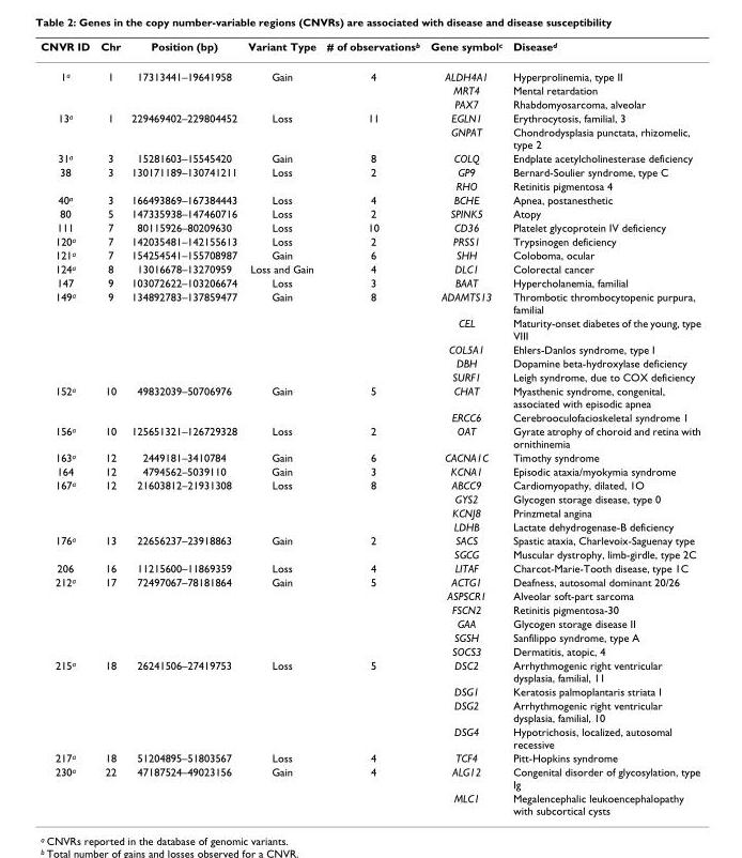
<table><thead><tr><td>CNVR ID</td><td>Chr</td><td>Position (bp)</td><td>Variant Type</td><td># of observations<sup>b</sup></td><td>Gene symbol<sup>c</sup></td><td>Disease<sup>d</sup></td></tr></thead><tbody><tr><td rowspan="3">1<sup>a</sup></td><td>1</td><td>17313441–19641958</td><td>Gain</td><td>4</td><td>ALDH4A1</td><td>Hyperprolinemia, type II</td></tr><tr><td></td><td></td><td></td><td></td><td>MRT4</td><td>Mental retardation</td></tr><tr><td></td><td></td><td></td><td></td><td>PAX7</td><td>Rhabdomyosarcoma, alveolar</td></tr><tr><td rowspan="2">13<sup>a</sup></td><td>1</td><td>229469402–229804452</td><td>Loss</td><td>11</td><td>EGLN1</td><td>Erythrocytosis, familial, 3</td></tr><tr><td></td><td></td><td></td><td></td><td>GNPAT</td><td>Chondrodysplasia punctata, rhizomelic, type 2</td></tr><tr><td>31<sup>a</sup></td><td>3</td><td>15281603–15545420</td><td>Gain</td><td>8</td><td>COLQ</td><td>Endplate acetylcholinesterase deficiency</td></tr><tr><td rowspan="2">38</td><td>3</td><td>130171189–130741211</td><td>Loss</td><td>2</td><td>GP9</td><td>Bernard-Soulier syndrome, type C</td></tr><tr><td></td><td></td><td></td><td></td><td>RHO</td><td>Retinitis pigmentosa 4</td></tr><tr><td>40<sup>a</sup></td><td>3</td><td>166493869–167384443</td><td>Loss</td><td>4</td><td>BCHE</td><td>Apnea, postanesthetic</td></tr><tr><td>80</td><td>5</td><td>147335938–147460716</td><td>Loss</td><td>2</td><td>SPINK5</td><td>Atopy</td></tr><tr><td>111</td><td>7</td><td>80115926–80209630</td><td>Loss</td><td>10</td><td>CD36</td><td>Platelet glycoprotein IV deficiency</td></tr><tr><td>120<sup>a</sup></td><td>7</td><td>142035481–142155613</td><td>Loss</td><td>2</td><td>PRSS1</td><td>Trypsinogen deficiency</td></tr><tr><td>121<sup>a</sup></td><td>7</td><td>154254541–155708987</td><td>Gain</td><td>6</td><td>SHH</td><td>Coloboma, ocular</td></tr><tr><td>124<sup>a</sup></td><td>8</td><td>13016678–13270959</td><td>Loss and Gain</td><td>4</td><td>DLC1</td><td>Colorectal cancer</td></tr><tr><td>147</td><td>9</td><td>103072622–103206674</td><td>Loss</td><td>3</td><td>BAAT</td><td>Hypercholanemia, familial</td></tr><tr><td rowspan="5">149<sup>a</sup></td><td>9</td><td>134892783–137859477</td><td>Gain</td><td>8</td><td>ADAMTS13</td><td>Thrombotic thrombocytopenic purpura, familial</td></tr><tr><td></td><td></td><td></td><td></td><td>CEL</td><td>Maturity-onset diabetes of the young, type VIII</td></tr><tr><td></td><td></td><td></td><td></td><td>COL5A1</td><td>Ehlers-Danlos syndrome, type I</td></tr><tr><td></td><td></td><td></td><td></td><td>DBH</td><td>Dopamine beta-hydroxylase deficiency</td></tr><tr><td></td><td></td><td></td><td></td><td>SURF1</td><td>Leigh syndrome, due to COX deficiency</td></tr><tr><td rowspan="2">152<sup>a</sup></td><td>10</td><td>49832039–50706976</td><td>Gain</td><td>5</td><td>CHAT</td><td>Myasthenic syndrome, congenital, associated with episodic apnea</td></tr><tr><td></td><td></td><td></td><td></td><td>ERCC6</td><td>Cerebrooculofacioskeletal syndrome 1</td></tr><tr><td>156<sup>a</sup></td><td>10</td><td>125651321–126729328</td><td>Loss</td><td>2</td><td>OAT</td><td>Gyrate atrophy of choroid and retina with ornithinemia</td></tr><tr><td>163<sup>a</sup></td><td>12</td><td>2449181–3410784</td><td>Gain</td><td>6</td><td>CACNA1C</td><td>Timothy syndrome</td></tr><tr><td>164</td><td>12</td><td>4794562–5039110</td><td>Gain</td><td>3</td><td>KCNA1</td><td>Episodic ataxia/myokymia syndrome</td></tr><tr><td rowspan="4">167<sup>a</sup></td><td>12</td><td>21603812–21931308</td><td>Loss</td><td>8</td><td>ABCC9</td><td>Cardiomyopathy, dilated, 1O</td></tr><tr><td></td><td></td><td></td><td></td><td>GYS2</td><td>Glycogen storage disease, type 0</td></tr><tr><td></td><td></td><td></td><td></td><td>KCNJ8</td><td>Prinzmetal angina</td></tr><tr><td></td><td></td><td></td><td></td><td>LDHB</td><td>Lactate dehydrogenase-B deficiency</td></tr><tr><td rowspan="2">176<sup>a</sup></td><td>13</td><td>22656237–23918863</td><td>Gain</td><td>2</td><td>SACS</td><td>Spastic ataxia, Charlevoix-Saguenay type</td></tr><tr><td></td><td></td><td></td><td></td><td>SGCG</td><td>Muscular dystrophy, limb-girdle, type 2C</td></tr><tr><td>206</td><td>16</td><td>11215600–11869359</td><td>Loss</td><td>4</td><td>LITAF</td><td>Charcot-Marie-Tooth disease, type 1C</td></tr><tr><td rowspan="6">212<sup>a</sup></td><td>17</td><td>72497067–78181864</td><td>Gain</td><td>5</td><td>ACTG1</td><td>Deafness, autosomal dominant 20/26</td></tr><tr><td></td><td></td><td></td><td></td><td>ASPSCR1</td><td>Alveolar soft-part sarcoma</td></tr><tr><td></td><td></td><td></td><td></td><td>FSCN2</td><td>Retinitis pigmentosa-30</td></tr><tr><td></td><td></td><td></td><td></td><td>GAA</td><td>Glycogen storage disease II</td></tr><tr><td></td><td></td><td></td><td></td><td>SGSH</td><td>Sanfilippo syndrome, type A</td></tr><tr><td></td><td></td><td></td><td></td><td>SOCS3</td><td>Dermatitis, atopic, 4</td></tr><tr><td rowspan="4">215<sup>a</sup></td><td>18</td><td>26241506–27419753</td><td>Loss</td><td>5</td><td>DSC2</td><td>Arrhythmogenic right ventricular dysplasia, familial, 11</td></tr><tr><td></td><td></td><td></td><td></td><td>DSG1</td><td>Keratosis palmoplantaris striata I</td></tr><tr><td></td><td></td><td></td><td></td><td>DSG2</td><td>Arrhythmogenic right ventricular dysplasia, familial, 10</td></tr><tr><td></td><td></td><td></td><td></td><td>DSG4</td><td>Hypotrichosis, localized, autosomal recessive</td></tr><tr><td>217<sup>a</sup></td><td>18</td><td>51204895–51803567</td><td>Loss</td><td>4</td><td>TCF4</td><td>Pitt-Hopkins syndrome</td></tr><tr><td rowspan="2">230<sup>a</sup></td><td>22</td><td>47187524–49023156</td><td>Gain</td><td>4</td><td>ALG12</td><td>Congenital disorder of glycosylation, type Ig</td></tr><tr><td></td><td></td><td></td><td></td><td>MLC1</td><td>Megalencephalic leukoencephalopathy with subcortical cysts</td></tr></tbody></table>